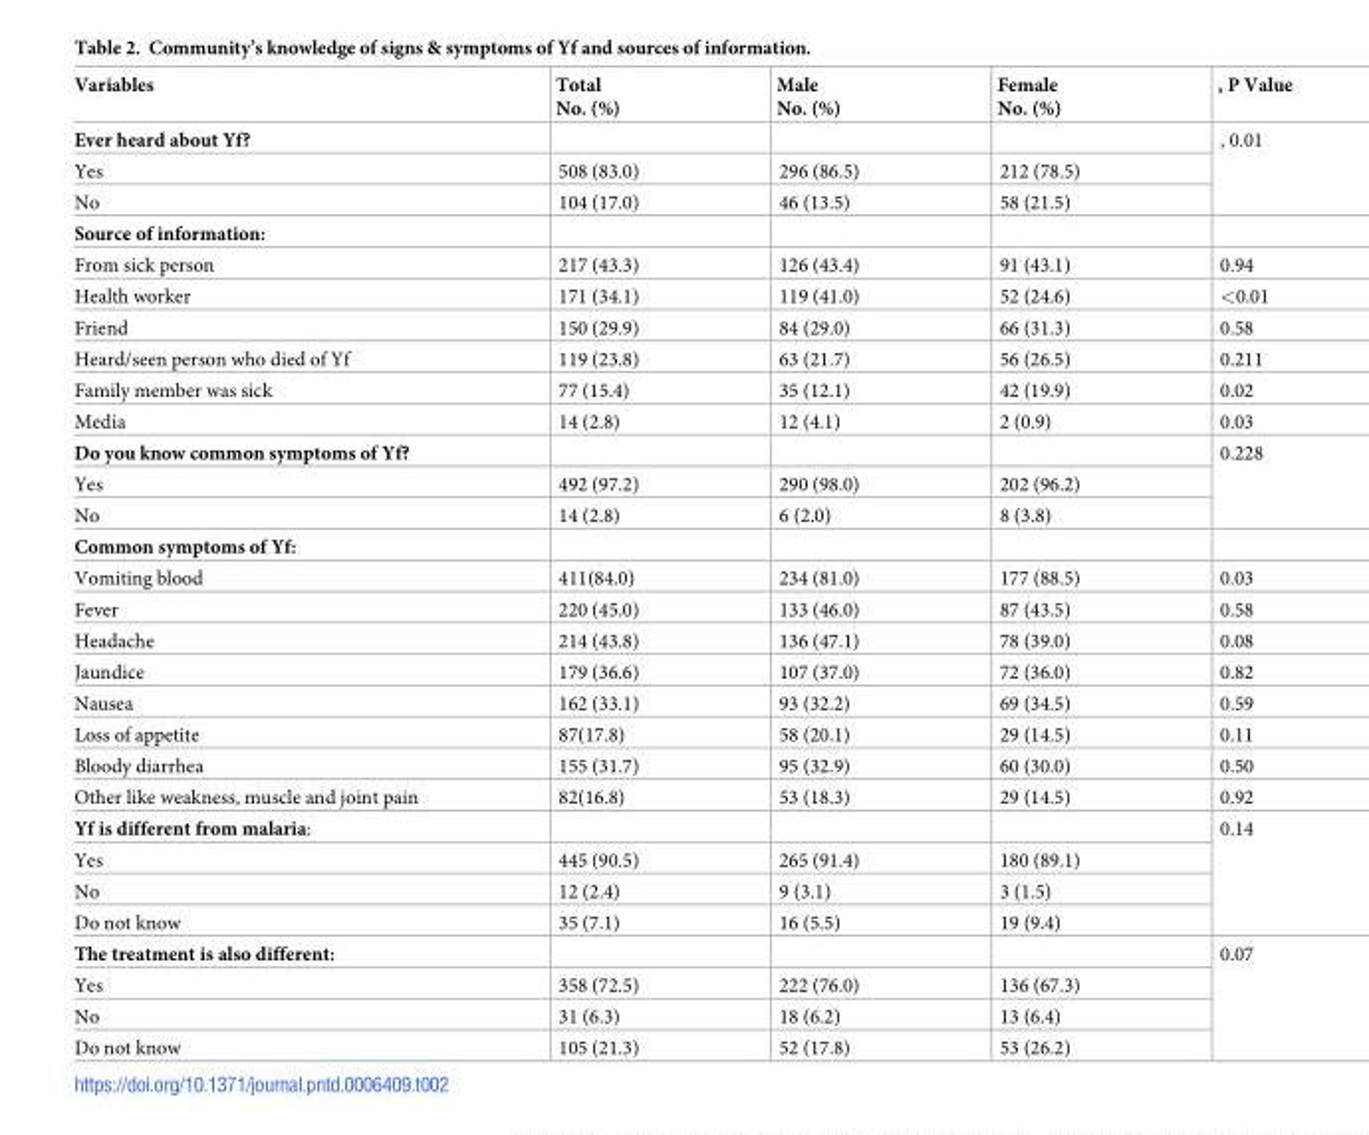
<table><thead><tr><td>Variables</td><td>Total No. (%)</td><td>Male No. (%)</td><td>Female No. (%)</td><td>, P Value</td></tr></thead><tbody><tr><td colspan="4">Ever heard about Yf?</td><td rowspan="3">, 0.01</td></tr><tr><td>Yes</td><td>508 (83.0)</td><td>296 (86.5)</td><td>212 (78.5)</td></tr><tr><td>No</td><td>104 (17.0)</td><td>46 (13.5)</td><td>58 (21.5)</td></tr><tr><td colspan="5">Source of information:</td></tr><tr><td>From sick person</td><td>217 (43.3)</td><td>126 (43.4)</td><td>91 (43.1)</td><td>0.94</td></tr><tr><td>Health worker</td><td>171 (34.1)</td><td>119 (41.0)</td><td>52 (24.6)</td><td>&lt;0.01</td></tr><tr><td>Friend</td><td>150 (29.9)</td><td>84 (29.0)</td><td>66 (31.3)</td><td>0.58</td></tr><tr><td>Heard/seen person who died of Yf</td><td>119 (23.8)</td><td>63 (21.7)</td><td>56 (26.5)</td><td>0.211</td></tr><tr><td>Family member was sick</td><td>77 (15.4)</td><td>35 (12.1)</td><td>42 (19.9)</td><td>0.02</td></tr><tr><td>Media</td><td>14 (2.8)</td><td>12 (4.1)</td><td>2 (0.9)</td><td>0.03</td></tr><tr><td colspan="4">Do you know common symptoms of Yf?</td><td rowspan="3">0.228</td></tr><tr><td>Yes</td><td>492 (97.2)</td><td>290 (98.0)</td><td>202 (96.2)</td></tr><tr><td>No</td><td>14 (2.8)</td><td>6 (2.0)</td><td>8 (3.8)</td></tr><tr><td colspan="5">Common symptoms of Yf:</td></tr><tr><td>Vomiting blood</td><td>411(84.0)</td><td>234 (81.0)</td><td>177 (88.5)</td><td>0.03</td></tr><tr><td>Fever</td><td>220 (45.0)</td><td>133 (46.0)</td><td>87 (43.5)</td><td>0.58</td></tr><tr><td>Headache</td><td>214 (43.8)</td><td>136 (47.1)</td><td>78 (39.0)</td><td>0.08</td></tr><tr><td>Jaundice</td><td>179 (36.6)</td><td>107 (37.0)</td><td>72 (36.0)</td><td>0.82</td></tr><tr><td>Nausea</td><td>162 (33.1)</td><td>93 (32.2)</td><td>69 (34.5)</td><td>0.59</td></tr><tr><td>Loss of appetite</td><td>87(17.8)</td><td>58 (20.1)</td><td>29 (14.5)</td><td>0.11</td></tr><tr><td>Bloody diarrhea</td><td>155 (31.7)</td><td>95 (32.9)</td><td>60 (30.0)</td><td>0.50</td></tr><tr><td>Other like weakness, muscle and joint pain</td><td>82(16.8)</td><td>53 (18.3)</td><td>29 (14.5)</td><td>0.92</td></tr><tr><td colspan="4">Yf is different from malaria:</td><td rowspan="4">0.14</td></tr><tr><td>Yes</td><td>445 (90.5)</td><td>265 (91.4)</td><td>180 (89.1)</td></tr><tr><td>No</td><td>12 (2.4)</td><td>9 (3.1)</td><td>3 (1.5)</td></tr><tr><td>Do not know</td><td>35 (7.1)</td><td>16 (5.5)</td><td>19 (9.4)</td></tr><tr><td colspan="4">The treatment is also different:</td><td rowspan="4">0.07</td></tr><tr><td>Yes</td><td>358 (72.5)</td><td>222 (76.0)</td><td>136 (67.3)</td></tr><tr><td>No</td><td>31 (6.3)</td><td>18 (6.2)</td><td>13 (6.4)</td></tr><tr><td>Do not know</td><td>105 (21.3)</td><td>52 (17.8)</td><td>53 (26.2)</td></tr></tbody></table>